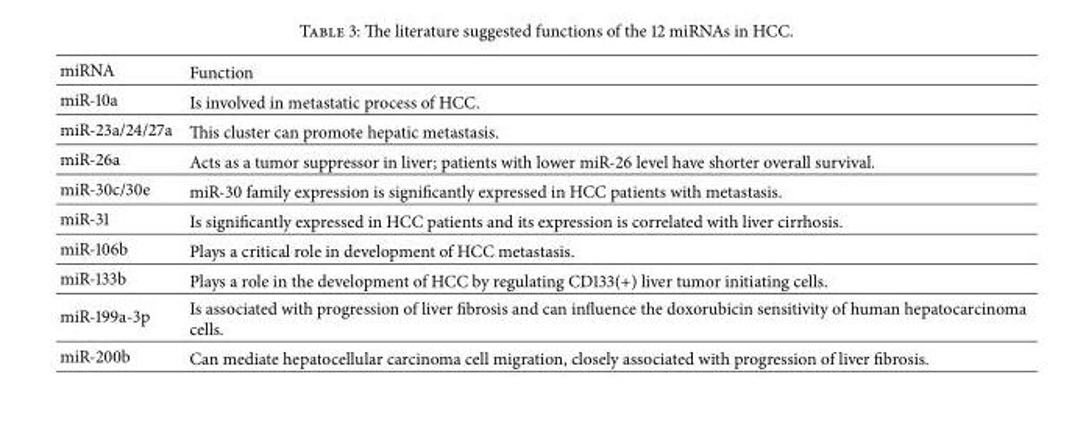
<table><thead><tr><td>miRNA</td><td>Function</td></tr></thead><tbody><tr><td>miR-10a</td><td>Is involved in metastatic process of HCC.</td></tr><tr><td>miR-23a/24/27a</td><td>This cluster can promote hepatic metastasis.</td></tr><tr><td>miR-26a</td><td>Acts as a tumor suppressor in liver; patients with lower miR-26 level have shorter overall survival.</td></tr><tr><td>miR-30c/30e</td><td>miR-30 family expression is significantly expressed in HCC patients with metastasis.</td></tr><tr><td>miR-31</td><td>Is significantly expressed in HCC patients and its expression is correlated with liver cirrhosis.</td></tr><tr><td>miR-106b</td><td>Plays a critical role in development of HCC metastasis.</td></tr><tr><td>miR-133b</td><td>Plays a role in the development of HCC by regulating CD133(+) liver tumor initiating cells.</td></tr><tr><td>miR-199a-3p</td><td>Is associated with progression of liver fibrosis and can influence the doxorubicin sensitivity of human hepatocarcinoma cells.</td></tr><tr><td>miR-200b</td><td>Can mediate hepatocellular carcinoma cell migration, closely associated with progression of liver fibrosis.</td></tr></tbody></table>